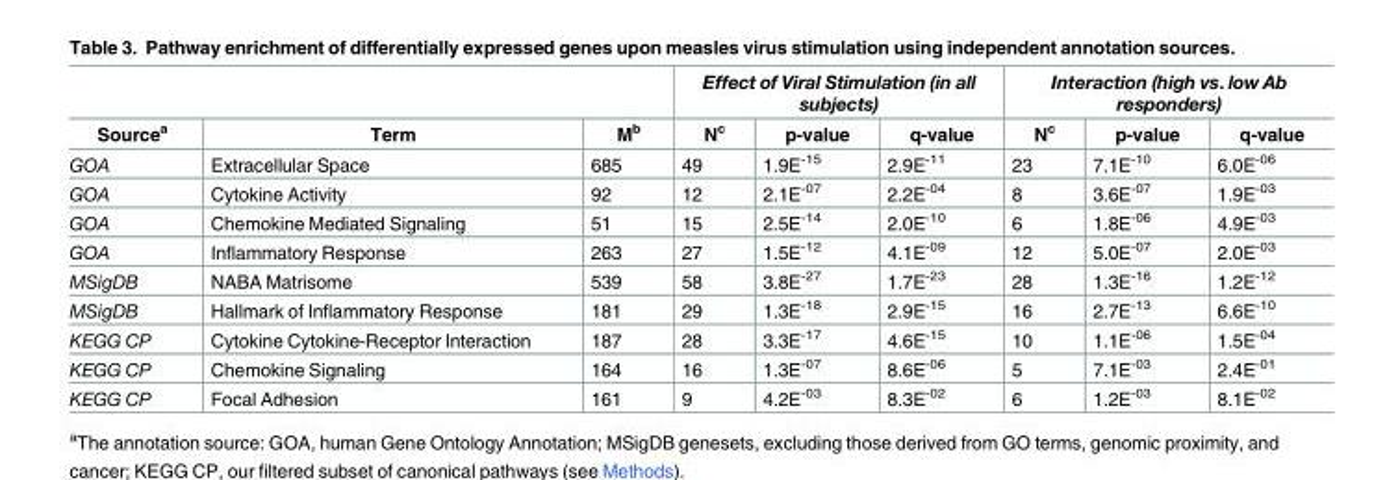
<table><thead><tr><td rowspan="2">Source<sup>a</sup></td><td rowspan="2">Term</td><td rowspan="2">M<sup>b</sup></td><td colspan="3">Effect of Viral Stimulation (in all subjects)</td><td colspan="3">Interaction (high vs. low Ab responders)</td></tr><tr><td>N<sup>c</sup></td><td>p-value</td><td>q-value</td><td>N<sup>c</sup></td><td>p-value</td><td>q-value</td></tr></thead><tbody><tr><td>GOA</td><td>Extracellular Space</td><td>685</td><td>49</td><td>1.9E<sup>-15</sup></td><td>2.9E<sup>-11</sup></td><td>23</td><td>7.1E<sup>-10</sup></td><td>6.0E<sup>-06</sup></td></tr><tr><td>GOA</td><td>Cytokine Activity</td><td>92</td><td>12</td><td>2.1E<sup>-07</sup></td><td>2.2E<sup>-04</sup></td><td>8</td><td>3.6E<sup>-07</sup></td><td>1.9E<sup>-03</sup></td></tr><tr><td>GOA</td><td>Chemokine Mediated Signaling</td><td>51</td><td>15</td><td>2.5E<sup>-14</sup></td><td>2.0E<sup>-10</sup></td><td>6</td><td>1.8E<sup>-06</sup></td><td>4.9E<sup>-03</sup></td></tr><tr><td>GOA</td><td>Inflammatory Response</td><td>263</td><td>27</td><td>1.5E<sup>-12</sup></td><td>4.1E<sup>-09</sup></td><td>12</td><td>5.0E<sup>-07</sup></td><td>2.0E<sup>-03</sup></td></tr><tr><td>MSigDB</td><td>NABA Matrisome</td><td>539</td><td>58</td><td>3.8E<sup>-27</sup></td><td>1.7E<sup>-23</sup></td><td>28</td><td>1.3E<sup>-16</sup></td><td>1.2E<sup>-12</sup></td></tr><tr><td>MSigDB</td><td>Hallmark of Inflammatory Response</td><td>181</td><td>29</td><td>1.3E<sup>-18</sup></td><td>2.9E<sup>-15</sup></td><td>16</td><td>2.7E<sup>-13</sup></td><td>6.6E<sup>-10</sup></td></tr><tr><td>KEGG CP</td><td>Cytokine Cytokine-Receptor Interaction</td><td>187</td><td>28</td><td>3.3E<sup>-17</sup></td><td>4.6E<sup>-15</sup></td><td>10</td><td>1.1E<sup>-06</sup></td><td>1.5E<sup>-04</sup></td></tr><tr><td>KEGG CP</td><td>Chemokine Signaling</td><td>164</td><td>16</td><td>1.3E<sup>-07</sup></td><td>8.6E<sup>-06</sup></td><td>5</td><td>7.1E<sup>-03</sup></td><td>2.4E<sup>-01</sup></td></tr><tr><td>KEGG CP</td><td>Focal Adhesion</td><td>161</td><td>9</td><td>4.2E<sup>-03</sup></td><td>8.3E<sup>-02</sup></td><td>6</td><td>1.2E<sup>-03</sup></td><td>8.1E<sup>-02</sup></td></tr></tbody></table>